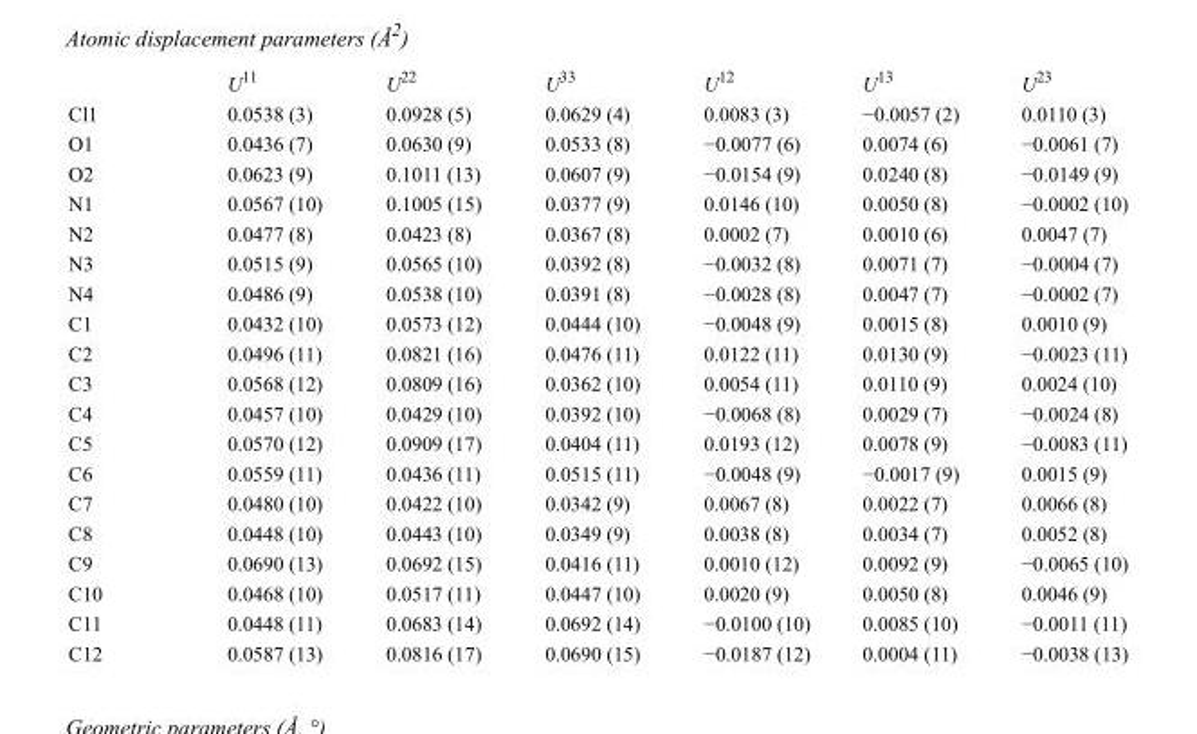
<table><thead><tr><td></td><td>U<sup>11</sup></td><td>U<sup>22</sup></td><td>U<sup>33</sup></td><td>U<sup>12</sup></td><td>U<sup>13</sup></td><td>U<sup>23</sup></td></tr></thead><tbody><tr><td>Cl1</td><td>0.0538 (3)</td><td>0.0928 (5)</td><td>0.0629 (4)</td><td>0.0083 (3)</td><td>−0.0057 (2)</td><td>0.0110 (3)</td></tr><tr><td>O1</td><td>0.0436 (7)</td><td>0.0630 (9)</td><td>0.0533 (8)</td><td>−0.0077 (6)</td><td>0.0074 (6)</td><td>−0.0061 (7)</td></tr><tr><td>O2</td><td>0.0623 (9)</td><td>0.1011 (13)</td><td>0.0607 (9)</td><td>−0.0154 (9)</td><td>0.0240 (8)</td><td>−0.0149 (9)</td></tr><tr><td>N1</td><td>0.0567 (10)</td><td>0.1005 (15)</td><td>0.0377 (9)</td><td>0.0146 (10)</td><td>0.0050 (8)</td><td>−0.0002 (10)</td></tr><tr><td>N2</td><td>0.0477 (8)</td><td>0.0423 (8)</td><td>0.0367 (8)</td><td>0.0002 (7)</td><td>0.0010 (6)</td><td>0.0047 (7)</td></tr><tr><td>N3</td><td>0.0515 (9)</td><td>0.0565 (10)</td><td>0.0392 (8)</td><td>−0.0032 (8)</td><td>0.0071 (7)</td><td>−0.0004 (7)</td></tr><tr><td>N4</td><td>0.0486 (9)</td><td>0.0538 (10)</td><td>0.0391 (8)</td><td>−0.0028 (8)</td><td>0.0047 (7)</td><td>−0.0002 (7)</td></tr><tr><td>C1</td><td>0.0432 (10)</td><td>0.0573 (12)</td><td>0.0444 (10)</td><td>−0.0048 (9)</td><td>0.0015 (8)</td><td>0.0010 (9)</td></tr><tr><td>C2</td><td>0.0496 (11)</td><td>0.0821 (16)</td><td>0.0476 (11)</td><td>0.0122 (11)</td><td>0.0130 (9)</td><td>−0.0023 (11)</td></tr><tr><td>C3</td><td>0.0568 (12)</td><td>0.0809 (16)</td><td>0.0362 (10)</td><td>0.0054 (11)</td><td>0.0110 (9)</td><td>0.0024 (10)</td></tr><tr><td>C4</td><td>0.0457 (10)</td><td>0.0429 (10)</td><td>0.0392 (10)</td><td>−0.0068 (8)</td><td>0.0029 (7)</td><td>−0.0024 (8)</td></tr><tr><td>C5</td><td>0.0570 (12)</td><td>0.0909 (17)</td><td>0.0404 (11)</td><td>0.0193 (12)</td><td>0.0078 (9)</td><td>−0.0083 (11)</td></tr><tr><td>C6</td><td>0.0559 (11)</td><td>0.0436 (11)</td><td>0.0515 (11)</td><td>−0.0048 (9)</td><td>−0.0017 (9)</td><td>0.0015 (9)</td></tr><tr><td>C7</td><td>0.0480 (10)</td><td>0.0422 (10)</td><td>0.0342 (9)</td><td>0.0067 (8)</td><td>0.0022 (7)</td><td>0.0066 (8)</td></tr><tr><td>C8</td><td>0.0448 (10)</td><td>0.0443 (10)</td><td>0.0349 (9)</td><td>0.0038 (8)</td><td>0.0034 (7)</td><td>0.0052 (8)</td></tr><tr><td>C9</td><td>0.0690 (13)</td><td>0.0692 (15)</td><td>0.0416 (11)</td><td>0.0010 (12)</td><td>0.0092 (9)</td><td>−0.0065 (10)</td></tr><tr><td>C10</td><td>0.0468 (10)</td><td>0.0517 (11)</td><td>0.0447 (10)</td><td>0.0020 (9)</td><td>0.0050 (8)</td><td>0.0046 (9)</td></tr><tr><td>C11</td><td>0.0448 (11)</td><td>0.0683 (14)</td><td>0.0692 (14)</td><td>−0.0100 (10)</td><td>0.0085 (10)</td><td>−0.0011 (11)</td></tr><tr><td>C12</td><td>0.0587 (13)</td><td>0.0816 (17)</td><td>0.0690 (15)</td><td>−0.0187 (12)</td><td>0.0004 (11)</td><td>−0.0038 (13)</td></tr></tbody></table>